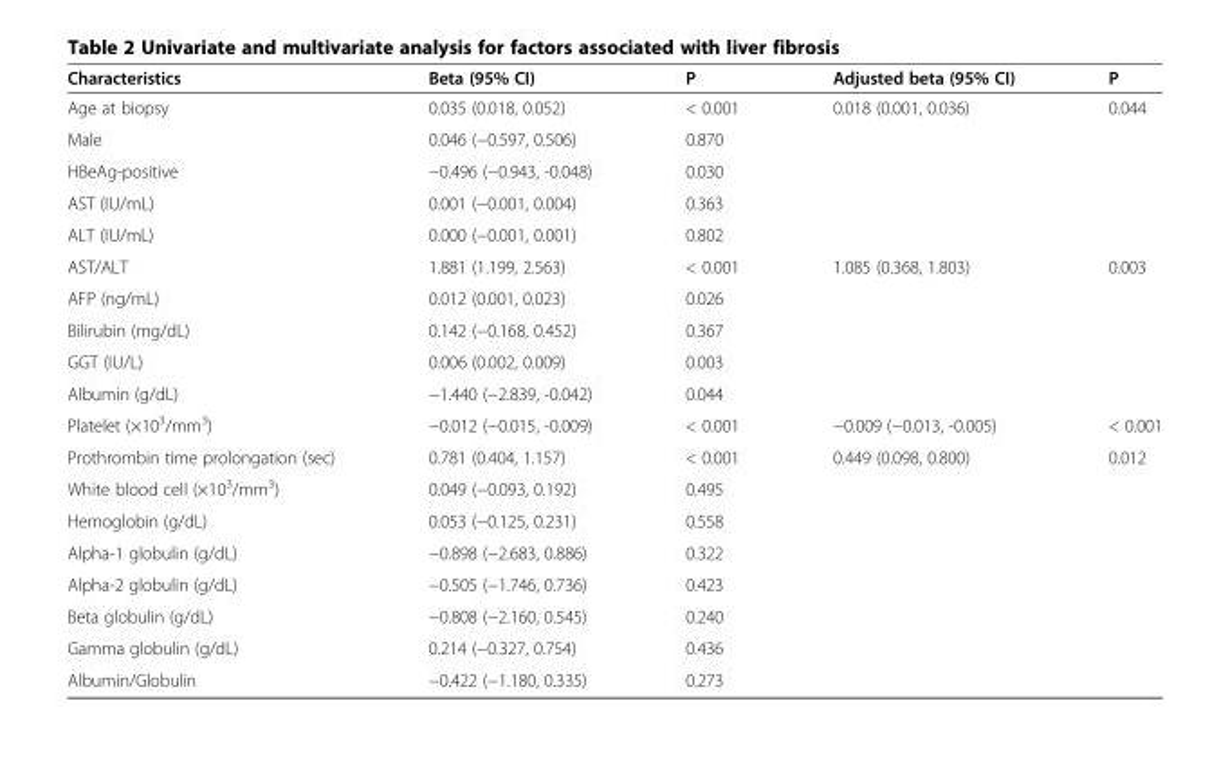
<table><thead><tr><td>Characteristics</td><td>Beta (95% CI)</td><td>P</td><td>Adjusted beta (95% CI)</td><td>P</td></tr></thead><tbody><tr><td>Age at biopsy</td><td>0.035 (0.018, 0.052)</td><td>&lt; 0.001</td><td>0.018 (0.001, 0.036)</td><td>0.044</td></tr><tr><td>Male</td><td>0.046 (−0.597, 0.506)</td><td>0.870</td><td></td><td></td></tr><tr><td>HBeAg-positive</td><td>−0.496 (−0.943, -0.048)</td><td>0.030</td><td></td><td></td></tr><tr><td>AST (IU/mL)</td><td>0.001 (−0.001, 0.004)</td><td>0.363</td><td></td><td></td></tr><tr><td>ALT (IU/mL)</td><td>0.000 (−0.001, 0.001)</td><td>0.802</td><td></td><td></td></tr><tr><td>AST/ALT</td><td>1.881 (1.199, 2.563)</td><td>&lt; 0.001</td><td>1.085 (0.368, 1.803)</td><td>0.003</td></tr><tr><td>AFP (ng/mL)</td><td>0.012 (0.001, 0.023)</td><td>0.026</td><td></td><td></td></tr><tr><td>Bilirubin (mg/dL)</td><td>0.142 (−0.168, 0.452)</td><td>0.367</td><td></td><td></td></tr><tr><td>GGT (IU/L)</td><td>0.006 (0.002, 0.009)</td><td>0.003</td><td></td><td></td></tr><tr><td>Albumin (g/dL)</td><td>−1.440 (−2.839, -0.042)</td><td>0.044</td><td></td><td></td></tr><tr><td>Platelet (×10<sup>3</sup>/mm<sup>3</sup>)</td><td>−0.012 (−0.015, -0.009)</td><td>&lt; 0.001</td><td>−0.009 (−0.013, -0.005)</td><td>&lt; 0.001</td></tr><tr><td>Prothrombin time prolongation (sec)</td><td>0.781 (0.404, 1.157)</td><td>&lt; 0.001</td><td>0.449 (0.098, 0.800)</td><td>0.012</td></tr><tr><td>White blood cell (×10<sup>3</sup>/mm<sup>3</sup>)</td><td>0.049 (−0.093, 0.192)</td><td>0.495</td><td></td><td></td></tr><tr><td>Hemoglobin (g/dL)</td><td>0.053 (−0.125, 0.231)</td><td>0.558</td><td></td><td></td></tr><tr><td>Alpha-1 globulin (g/dL)</td><td>−0.898 (−2.683, 0.886)</td><td>0.322</td><td></td><td></td></tr><tr><td>Alpha-2 globulin (g/dL)</td><td>−0.505 (−1.746, 0.736)</td><td>0.423</td><td></td><td></td></tr><tr><td>Beta globulin (g/dL)</td><td>−0.808 (−2.160, 0.545)</td><td>0.240</td><td></td><td></td></tr><tr><td>Gamma globulin (g/dL)</td><td>0.214 (−0.327, 0.754)</td><td>0.436</td><td></td><td></td></tr><tr><td>Albumin/Globulin</td><td>−0.422 (−1.180, 0.335)</td><td>0.273</td><td></td><td></td></tr></tbody></table>